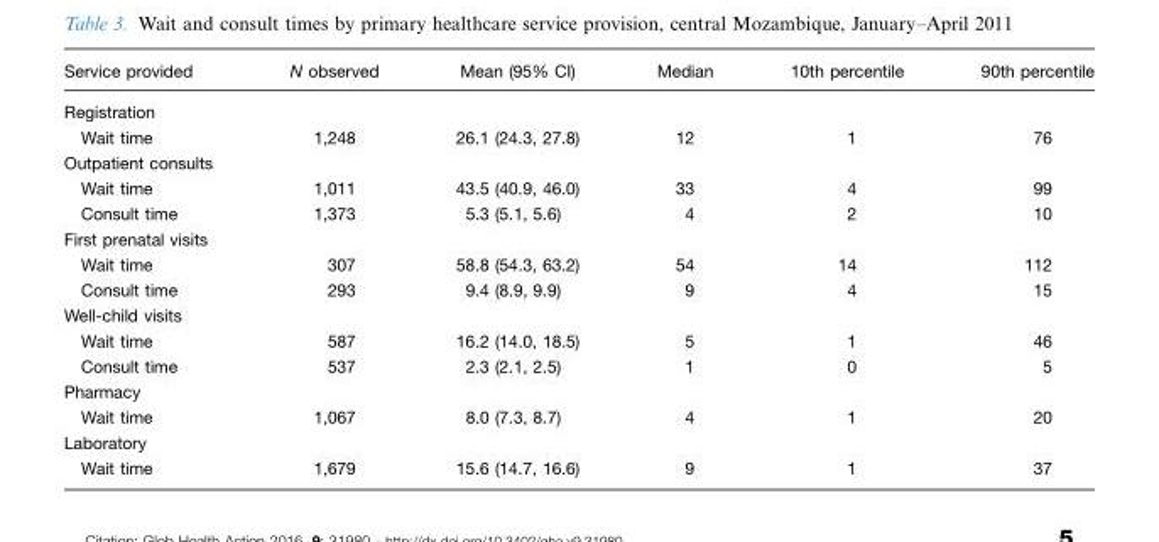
<table><thead><tr><td>Service provided</td><td>N observed</td><td>Mean (95% CI)</td><td>Median</td><td>10th percentile</td><td>90th percentile</td></tr></thead><tbody><tr><td colspan="6">Registration</td></tr><tr><td>Wait time</td><td>1,248</td><td>26.1 (24.3, 27.8)</td><td>12</td><td>1</td><td>76</td></tr><tr><td colspan="6">Outpatient consults</td></tr><tr><td>Wait time</td><td>1,011</td><td>43.5 (40.9, 46.0)</td><td>33</td><td>4</td><td>99</td></tr><tr><td>Consult time</td><td>1,373</td><td>5.3 (5.1, 5.6)</td><td>4</td><td>2</td><td>10</td></tr><tr><td colspan="6">First prenatal visits</td></tr><tr><td>Wait time</td><td>307</td><td>58.8 (54.3, 63.2)</td><td>54</td><td>14</td><td>112</td></tr><tr><td>Consult time</td><td>293</td><td>9.4 (8.9, 9.9)</td><td>9</td><td>4</td><td>15</td></tr><tr><td colspan="6">Well-child visits</td></tr><tr><td>Wait time</td><td>587</td><td>16.2 (14.0, 18.5)</td><td>5</td><td>1</td><td>46</td></tr><tr><td>Consult time</td><td>537</td><td>2.3 (2.1, 2.5)</td><td>1</td><td>0</td><td>5</td></tr><tr><td colspan="6">Pharmacy</td></tr><tr><td>Wait time</td><td>1,067</td><td>8.0 (7.3, 8.7)</td><td>4</td><td>1</td><td>20</td></tr><tr><td colspan="6">Laboratory</td></tr><tr><td>Wait time</td><td>1,679</td><td>15.6 (14.7, 16.6)</td><td>9</td><td>1</td><td>37</td></tr></tbody></table>